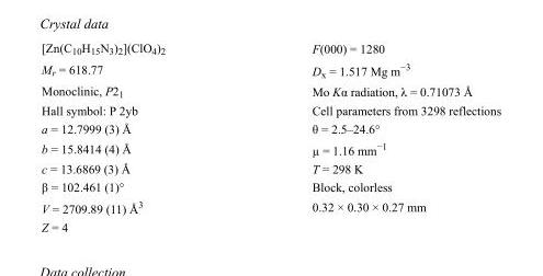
<table><tbody><tr><td>[Zn(C<sub>10</sub>H<sub>15</sub>N<sub>3</sub>)<sub>2</sub>](ClO<sub>4</sub>)<sub>2</sub></td><td>F(000) = 1280</td></tr><tr><td>M<sub>r</sub> = 618.77</td><td>D<sub>x</sub> = 1.517 Mg m<sup>−3</sup></td></tr><tr><td>Monoclinic, P2<sub>1</sub></td><td>Mo Kα radiation, λ = 0.71073 Å</td></tr><tr><td>Hall symbol: P 2yb</td><td>Cell parameters from 3298 reflections</td></tr><tr><td>a = 12.7999 (3) Å</td><td>θ = 2.5–24.6°</td></tr><tr><td>b = 15.8414 (4) Å</td><td>µ = 1.16 mm<sup>−1</sup></td></tr><tr><td>c = 13.6869 (3) Å</td><td>T = 298 K</td></tr><tr><td>β = 102.461 (1)°</td><td>Block, colorless</td></tr><tr><td>V = 2709.89 (11) Å<sup>3</sup></td><td>0.32 × 0.30 × 0.27 mm</td></tr><tr><td>Z = 4</td><td></td></tr></tbody></table>